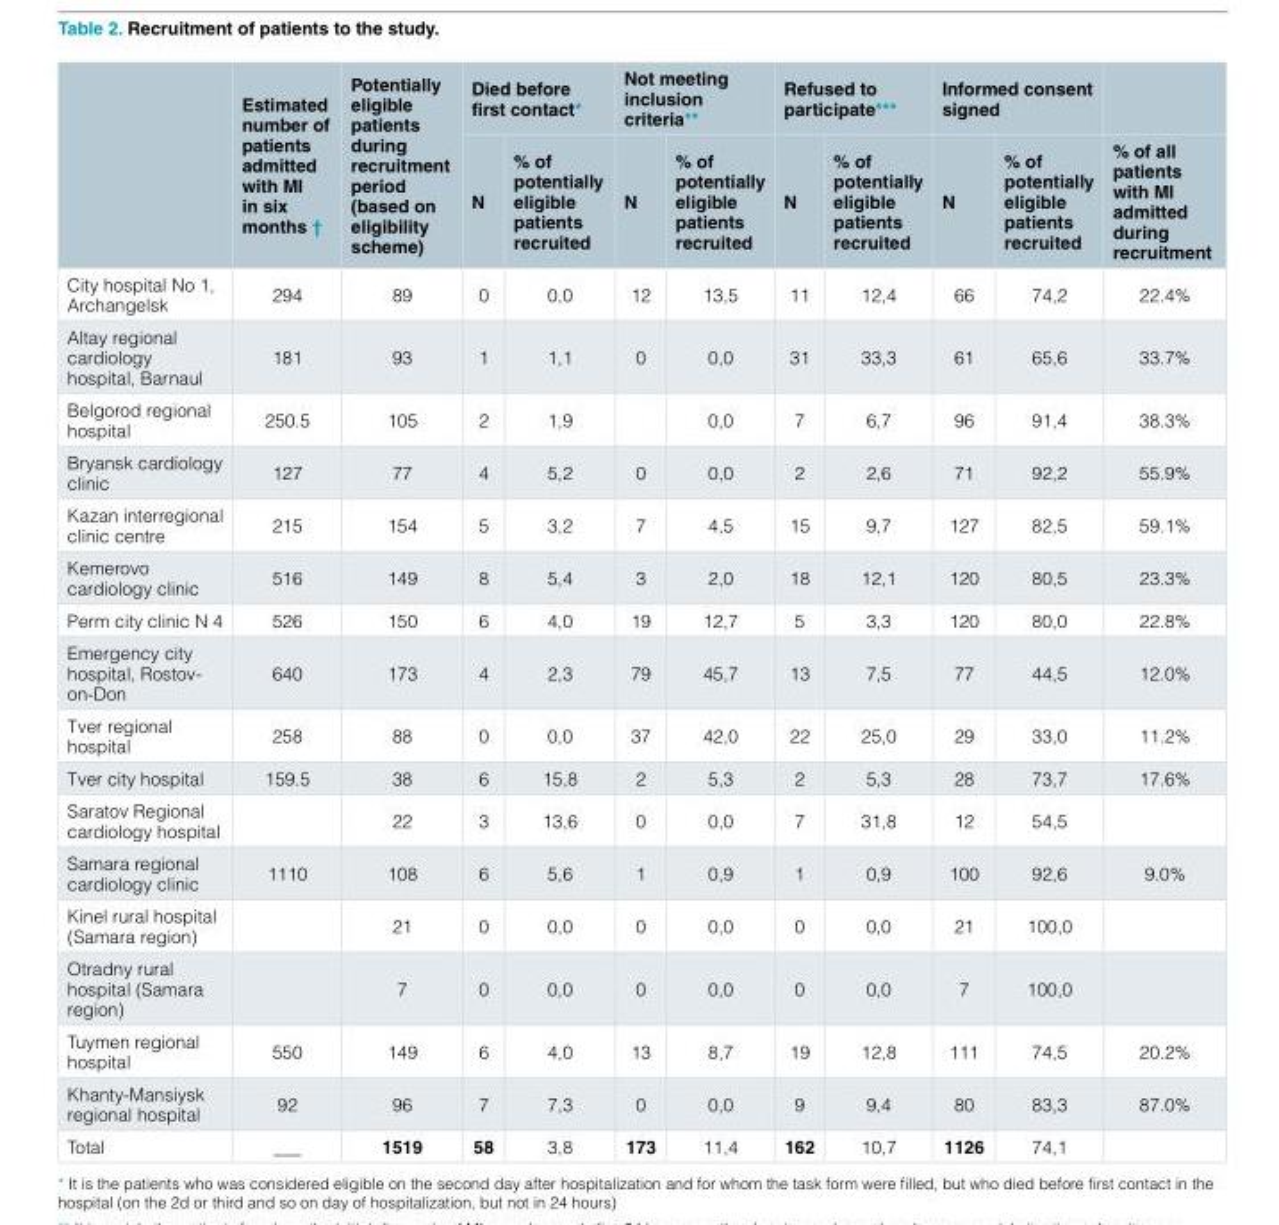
<table><thead><tr><td rowspan="2"></td><td rowspan="2">Estimated number of patients admitted with MI in six months †</td><td rowspan="2">Potentially eligible patients during recruitment period (based on eligibility scheme)</td><td colspan="2">Died before first contact*</td><td colspan="2">Not meeting inclusion criteria**</td><td colspan="2">Refused to participate***</td><td colspan="2">Informed consent signed</td><td rowspan="2">% of all patients with MI admitted during recruitment</td></tr><tr><td>N</td><td>% of potentially eligible patients recruited</td><td>N</td><td>% of potentially eligible patients recruited</td><td>N</td><td>% of potentially eligible patients recruited</td><td>N</td><td>% of potentially eligible patients recruited</td></tr></thead><tbody><tr><td>City hospital No 1, Archangelsk</td><td>294</td><td>89</td><td>0</td><td>0,0</td><td>12</td><td>13,5</td><td>11</td><td>12,4</td><td>66</td><td>74,2</td><td>22.4%</td></tr><tr><td>Altay regional cardiology hospital, Barnaul</td><td>181</td><td>93</td><td>1</td><td>1,1</td><td>0</td><td>0,0</td><td>31</td><td>33,3</td><td>61</td><td>65,6</td><td>33.7%</td></tr><tr><td>Belgorod regional hospital</td><td>250.5</td><td>105</td><td>2</td><td>1,9</td><td></td><td>0,0</td><td>7</td><td>6,7</td><td>96</td><td>91,4</td><td>38.3%</td></tr><tr><td>Bryansk cardiology clinic</td><td>127</td><td>77</td><td>4</td><td>5,2</td><td>0</td><td>0,0</td><td>2</td><td>2,6</td><td>71</td><td>92,2</td><td>55.9%</td></tr><tr><td>Kazan interregional clinic centre</td><td>215</td><td>154</td><td>5</td><td>3,2</td><td>7</td><td>4,5</td><td>15</td><td>9,7</td><td>127</td><td>82,5</td><td>59.1%</td></tr><tr><td>Kemerovo cardiology clinic</td><td>516</td><td>149</td><td>8</td><td>5,4</td><td>3</td><td>2,0</td><td>18</td><td>12,1</td><td>120</td><td>80,5</td><td>23.3%</td></tr><tr><td>Perm city clinic N 4</td><td>526</td><td>150</td><td>6</td><td>4,0</td><td>19</td><td>12,7</td><td>5</td><td>3,3</td><td>120</td><td>80,0</td><td>22.8%</td></tr><tr><td>Emergency city hospital, Rostov- on-Don</td><td>640</td><td>173</td><td>4</td><td>2,3</td><td>79</td><td>45,7</td><td>13</td><td>7,5</td><td>77</td><td>44,5</td><td>12.0%</td></tr><tr><td>Tver regional hospital</td><td>258</td><td>88</td><td>0</td><td>0,0</td><td>37</td><td>42,0</td><td>22</td><td>25,0</td><td>29</td><td>33,0</td><td>11.2%</td></tr><tr><td>Tver city hospital</td><td>159.5</td><td>38</td><td>6</td><td>15,8</td><td>2</td><td>5,3</td><td>2</td><td>5,3</td><td>28</td><td>73,7</td><td>17.6%</td></tr><tr><td>Saratov Regional cardiology hospital</td><td></td><td>22</td><td>3</td><td>13,6</td><td>0</td><td>0,0</td><td>7</td><td>31,8</td><td>12</td><td>54,5</td><td></td></tr><tr><td>Samara regional cardiology clinic</td><td>1110</td><td>108</td><td>6</td><td>5,6</td><td>1</td><td>0,9</td><td>1</td><td>0,9</td><td>100</td><td>92,6</td><td>9.0%</td></tr><tr><td>Kinel rural hospital (Samara region)</td><td></td><td>21</td><td>0</td><td>0,0</td><td>0</td><td>0,0</td><td>0</td><td>0,0</td><td>21</td><td>100,0</td><td></td></tr><tr><td>Otradny rural hospital (Samara region)</td><td></td><td>7</td><td>0</td><td>0,0</td><td>0</td><td>0,0</td><td>0</td><td>0,0</td><td>7</td><td>100,0</td><td></td></tr><tr><td>Tuymen regional hospital</td><td>550</td><td>149</td><td>6</td><td>4,0</td><td>13</td><td>8,7</td><td>19</td><td>12,8</td><td>111</td><td>74,5</td><td>20.2%</td></tr><tr><td>Khanty-Mansiysk regional hospital</td><td>92</td><td>96</td><td>7</td><td>7,3</td><td>0</td><td>0,0</td><td>9</td><td>9,4</td><td>80</td><td>83,3</td><td>87.0%</td></tr><tr><td>Total</td><td>___</td><td>1519</td><td>58</td><td>3,8</td><td>173</td><td>11,4</td><td>162</td><td>10,7</td><td>1126</td><td>74,1</td><td></td></tr></tbody></table>